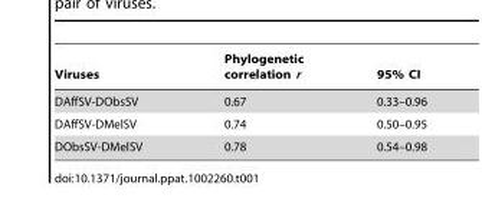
<table><thead><tr><td>Viruses</td><td>Phylogenetic correlation r</td><td>95% CI</td></tr></thead><tbody><tr><td>DAffSV-DObsSV</td><td>0.67</td><td>0.33–0.96</td></tr><tr><td>DAffSV-DMelSV</td><td>0.74</td><td>0.50–0.95</td></tr><tr><td>DObsSV-DMelSV</td><td>0.78</td><td>0.54–0.98</td></tr></tbody></table>